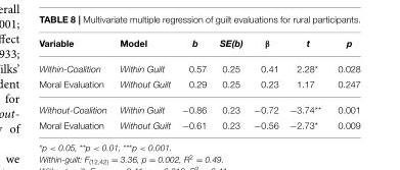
<table><thead><tr><td>Variable</td><td>Model</td><td>b</td><td>SE(b)</td><td>β</td><td>t</td><td>p</td></tr></thead><tbody><tr><td>Within-Coalition</td><td>Within Guilt</td><td>0.57</td><td>0.25</td><td>0.41</td><td>2.28*</td><td>0.028</td></tr><tr><td>Moral Evaluation</td><td>Without Guilt</td><td>0.29</td><td>0.25</td><td>0.23</td><td>1.17</td><td>0.247</td></tr><tr><td>Without-Coalition</td><td>Within Guilt</td><td>−0.86</td><td>0.23</td><td>−0.72</td><td>−3.74**</td><td>0.001</td></tr><tr><td>Moral Evaluation</td><td>Without Guilt</td><td>−0.61</td><td>0.23</td><td>−0.56</td><td>−2.73*</td><td>0.009</td></tr></tbody></table>